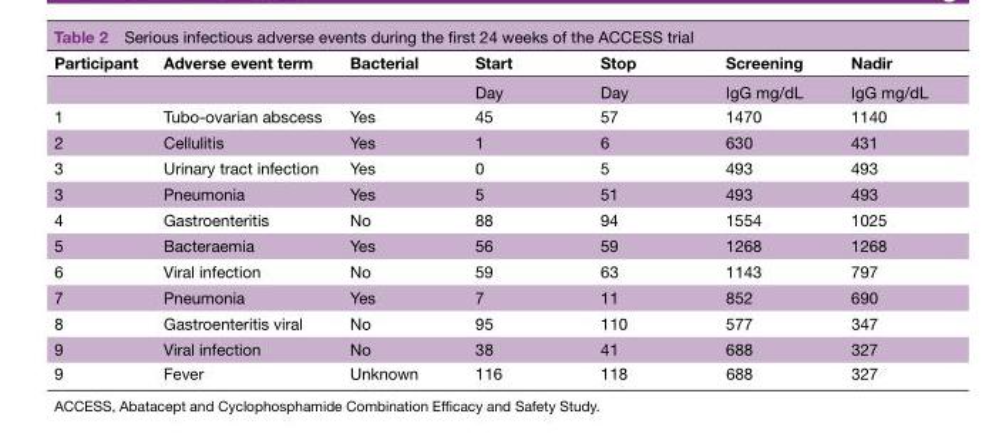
<table><thead><tr><td>Participant</td><td>Adverse event term</td><td>Bacterial</td><td>Start</td><td>Stop</td><td>Screening</td><td>Nadir</td></tr></thead><tbody><tr><td></td><td></td><td></td><td>Day</td><td>Day</td><td>IgG mg/dL</td><td>IgG mg/dL</td></tr><tr><td>1</td><td>Tubo-ovarian abscess</td><td>Yes</td><td>45</td><td>57</td><td>1470</td><td>1140</td></tr><tr><td>2</td><td>Cellulitis</td><td>Yes</td><td>1</td><td>6</td><td>630</td><td>431</td></tr><tr><td>3</td><td>Urinary tract infection</td><td>Yes</td><td>0</td><td>5</td><td>493</td><td>493</td></tr><tr><td>3</td><td>Pneumonia</td><td>Yes</td><td>5</td><td>51</td><td>493</td><td>493</td></tr><tr><td>4</td><td>Gastroenteritis</td><td>No</td><td>88</td><td>94</td><td>1554</td><td>1025</td></tr><tr><td>5</td><td>Bacteraemia</td><td>Yes</td><td>56</td><td>59</td><td>1268</td><td>1268</td></tr><tr><td>6</td><td>Viral infection</td><td>No</td><td>59</td><td>63</td><td>1143</td><td>797</td></tr><tr><td>7</td><td>Pneumonia</td><td>Yes</td><td>7</td><td>11</td><td>852</td><td>690</td></tr><tr><td>8</td><td>Gastroenteritis viral</td><td>No</td><td>95</td><td>110</td><td>577</td><td>347</td></tr><tr><td>9</td><td>Viral infection</td><td>No</td><td>38</td><td>41</td><td>688</td><td>327</td></tr><tr><td>9</td><td>Fever</td><td>Unknown</td><td>116</td><td>118</td><td>688</td><td>327</td></tr></tbody></table>